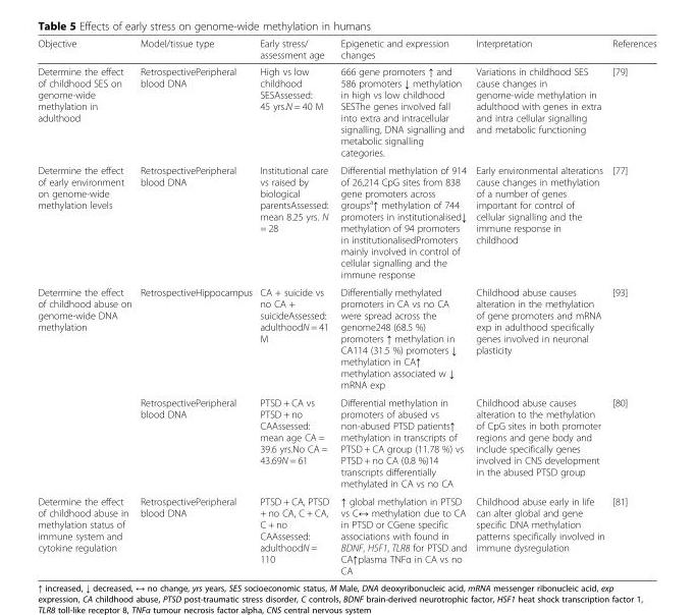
<table><thead><tr><td>Objective</td><td>Model/tissue type</td><td>Early stress/ assessment age</td><td>Epigenetic and expression changes</td><td>Interpretation</td><td>References</td></tr></thead><tbody><tr><td>Determine the effect of childhood SES on genome-wide methylation in adulthood</td><td>RetrospectivePeripheral blood DNA</td><td>High vs low childhood SESAssessed: 45 yrs.N = 40 M</td><td>666 gene promoters ↑ and 586 promoters ↓ methylation in high vs low childhood SESThe genes involved fall into extra and intracellular signalling, DNA signalling and metabolic signalling categories.</td><td>Variations in childhood SES cause changes in genome-wide methylation in adulthood with genes in extra and intra cellular signalling and metabolic functioning</td><td>[79]</td></tr><tr><td>Determine the effect of early environment on genome-wide methylation levels</td><td>RetrospectivePeripheral blood DNA</td><td>Institutional care vs raised by biological parentsAssessed: mean 8.25 yrs. N = 28</td><td>Differential methylation of 914 of 26,214 CpG sites from 838 gene promoters across groups<sup>a</sup>↑ methylation of 744 promoters in institutionalised↓ methylation of 94 promoters in institutionalisedPromoters mainly involved in control of cellular signalling and the immune response</td><td>Early environmental alterations cause changes in methylation of a number of genes important for control of cellular signalling and the immune response in childhood</td><td>[77]</td></tr><tr><td rowspan="2">Determine the effect of childhood abuse on genome-wide DNA methylation</td><td>RetrospectiveHippocampus</td><td>CA + suicide vs no CA + suicideAssessed: adulthoodN = 41 M</td><td>Differentially methylated promoters in CA vs no CA were spread across the genome248 (68.5 %) promoters ↑ methylation in CA114 (31.5 %) promoters ↓ methylation in CA↑ methylation associated w ↓ mRNA exp</td><td>Childhood abuse causes alteration in the methylation of gene promoters and mRNA exp in adulthood specifically genes involved in neuronal plasticity</td><td>[93]</td></tr><tr><td>RetrospectivePeripheral blood DNA</td><td>PTSD + CA vs PTSD + no CAAssessed: mean age CA = 39.6 yrs.No CA = 43.69N = 61</td><td>Differential methylation in promoters of abused vs non-abused PTSD patients↑ methylation in transcripts of PTSD + CA group (11.78 %) vs PTSD + no CA (0.8 %)14 transcripts differentially methylated in CA vs no CA</td><td>Childhood abuse causes alteration to the methylation of CpG sites in both promoter regions and gene body and include specifically genes involved in CNS development in the abused PTSD group</td><td>[80]</td></tr><tr><td>Determine the effect of childhood abuse in methylation status of immune system and cytokine regulation</td><td>RetrospectivePeripheral blood DNA</td><td>PTSD + CA, PTSD + no CA, C + CA, C + no CAAssessed: adulthoodN = 110</td><td>↑ global methylation in PTSD vs C↔ methylation due to CA in PTSD or CGene specific associations with found in BDNF, HSF1, TLR8 for PTSD and CA↑plasma TNFα in CA vs no CA</td><td>Childhood abuse early in life can alter global and gene specific DNA methylation patterns specifically involved in immune dysregulation</td><td>[81]</td></tr></tbody></table>